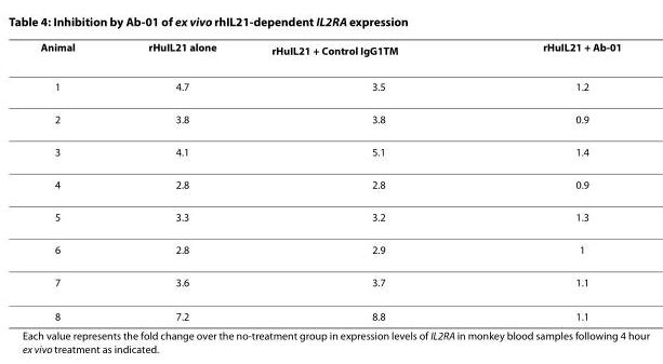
<table><thead><tr><td>Animal</td><td>rHuIL21 alone</td><td>rHuIL21 + Control IgG<sub>1</sub>TM</td><td>rHuIL21 + Ab-01</td></tr></thead><tbody><tr><td>1</td><td>4.7</td><td>3.5</td><td>1.2</td></tr><tr><td>2</td><td>3.8</td><td>3.8</td><td>0.9</td></tr><tr><td>3</td><td>4.1</td><td>5.1</td><td>1.4</td></tr><tr><td>4</td><td>2.8</td><td>2.8</td><td>0.9</td></tr><tr><td>5</td><td>3.3</td><td>3.2</td><td>1.3</td></tr><tr><td>6</td><td>2.8</td><td>2.9</td><td>1</td></tr><tr><td>7</td><td>3.6</td><td>3.7</td><td>1.1</td></tr><tr><td>8</td><td>7.2</td><td>8.8</td><td>1.1</td></tr></tbody></table>